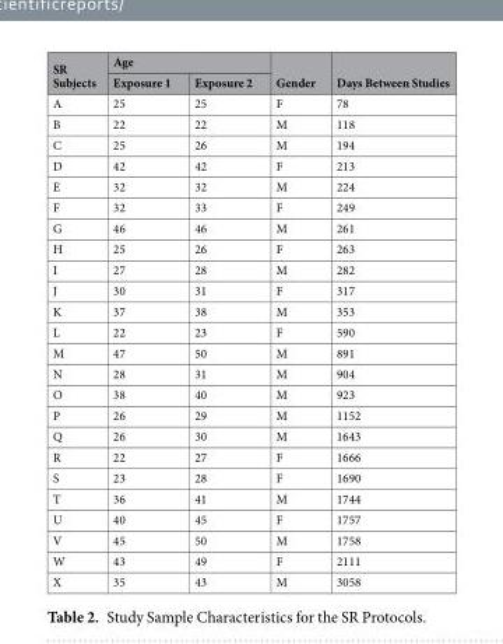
<table><thead><tr><td rowspan="2">SR Subjects</td><td colspan="2">Age</td><td rowspan="2">Gender</td><td rowspan="2">Days Between Studies</td></tr><tr><td>Exposure 1</td><td>Exposure 2</td></tr></thead><tbody><tr><td>A</td><td>25</td><td>25</td><td>F</td><td>78</td></tr><tr><td>B</td><td>22</td><td>22</td><td>M</td><td>118</td></tr><tr><td>C</td><td>25</td><td>26</td><td>M</td><td>194</td></tr><tr><td>D</td><td>42</td><td>42</td><td>F</td><td>213</td></tr><tr><td>E</td><td>32</td><td>32</td><td>M</td><td>224</td></tr><tr><td>F</td><td>32</td><td>33</td><td>F</td><td>249</td></tr><tr><td>G</td><td>46</td><td>46</td><td>M</td><td>261</td></tr><tr><td>H</td><td>25</td><td>26</td><td>F</td><td>263</td></tr><tr><td>I</td><td>27</td><td>28</td><td>M</td><td>282</td></tr><tr><td>J</td><td>30</td><td>31</td><td>F</td><td>317</td></tr><tr><td>K</td><td>37</td><td>38</td><td>M</td><td>353</td></tr><tr><td>L</td><td>22</td><td>23</td><td>F</td><td>590</td></tr><tr><td>M</td><td>47</td><td>50</td><td>M</td><td>891</td></tr><tr><td>N</td><td>28</td><td>31</td><td>M</td><td>904</td></tr><tr><td>O</td><td>38</td><td>40</td><td>M</td><td>923</td></tr><tr><td>P</td><td>26</td><td>29</td><td>M</td><td>1152</td></tr><tr><td>Q</td><td>26</td><td>30</td><td>M</td><td>1643</td></tr><tr><td>R</td><td>22</td><td>27</td><td>F</td><td>1666</td></tr><tr><td>S</td><td>23</td><td>28</td><td>F</td><td>1690</td></tr><tr><td>T</td><td>36</td><td>41</td><td>M</td><td>1744</td></tr><tr><td>U</td><td>40</td><td>45</td><td>F</td><td>1757</td></tr><tr><td>V</td><td>45</td><td>50</td><td>M</td><td>1758</td></tr><tr><td>W</td><td>43</td><td>49</td><td>F</td><td>2111</td></tr><tr><td>X</td><td>35</td><td>43</td><td>M</td><td>3058</td></tr></tbody></table>